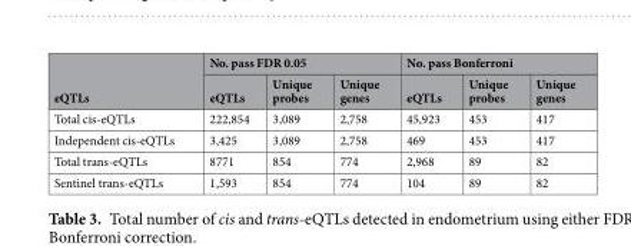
<table><thead><tr><td rowspan="2">eQTLs</td><td colspan="3">No. pass FDR 0.05</td><td colspan="3">No. pass Bonferroni</td></tr><tr><td>eQTLs</td><td>Unique probes</td><td>Unique genes</td><td>eQTLs</td><td>Unique probes</td><td>Unique genes</td></tr></thead><tbody><tr><td>Total cis-eQTLs</td><td>222,854</td><td>3,089</td><td>2,758</td><td>45,923</td><td>453</td><td>417</td></tr><tr><td>Independent cis-eQTLs</td><td>3,425</td><td>3,089</td><td>2,758</td><td>469</td><td>453</td><td>417</td></tr><tr><td>Total trans-eQTLs</td><td>8771</td><td>854</td><td>774</td><td>2,968</td><td>89</td><td>82</td></tr><tr><td>Sentinel trans-eQTLs</td><td>1,593</td><td>854</td><td>774</td><td>104</td><td>89</td><td>82</td></tr></tbody></table>